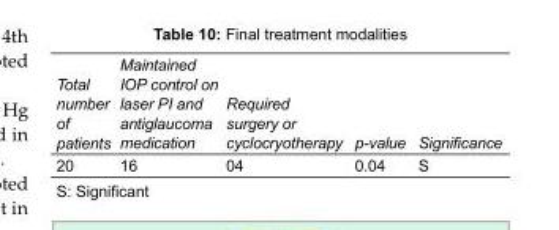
<table><tbody><tr><td>Total number of patients</td><td>Maintained IOP control on laser PI and antiglaucoma medication</td><td>Required surgery or cyclocryotherapy</td><td>p-value</td><td>Significance</td></tr><tr><td>20</td><td>16</td><td>04</td><td>0.04</td><td>S</td></tr></tbody></table>